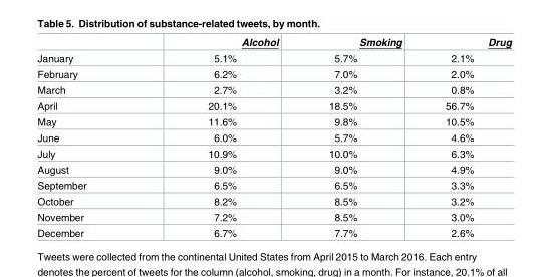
<table><thead><tr><td></td><td>Alcohol</td><td>Smoking</td><td>Drug</td></tr></thead><tbody><tr><td>January</td><td>5.1%</td><td>5.7%</td><td>2.1%</td></tr><tr><td>February</td><td>6.2%</td><td>7.0%</td><td>2.0%</td></tr><tr><td>March</td><td>2.7%</td><td>3.2%</td><td>0.8%</td></tr><tr><td>April</td><td>20.1%</td><td>18.5%</td><td>56.7%</td></tr><tr><td>May</td><td>11.6%</td><td>9.8%</td><td>10.5%</td></tr><tr><td>June</td><td>6.0%</td><td>5.7%</td><td>4.6%</td></tr><tr><td>July</td><td>10.9%</td><td>10.0%</td><td>6.3%</td></tr><tr><td>August</td><td>9.0%</td><td>9.0%</td><td>4.9%</td></tr><tr><td>September</td><td>6.5%</td><td>6.5%</td><td>3.3%</td></tr><tr><td>October</td><td>8.2%</td><td>8.5%</td><td>3.2%</td></tr><tr><td>November</td><td>7.2%</td><td>8.5%</td><td>3.0%</td></tr><tr><td>December</td><td>6.7%</td><td>7.7%</td><td>2.6%</td></tr></tbody></table>